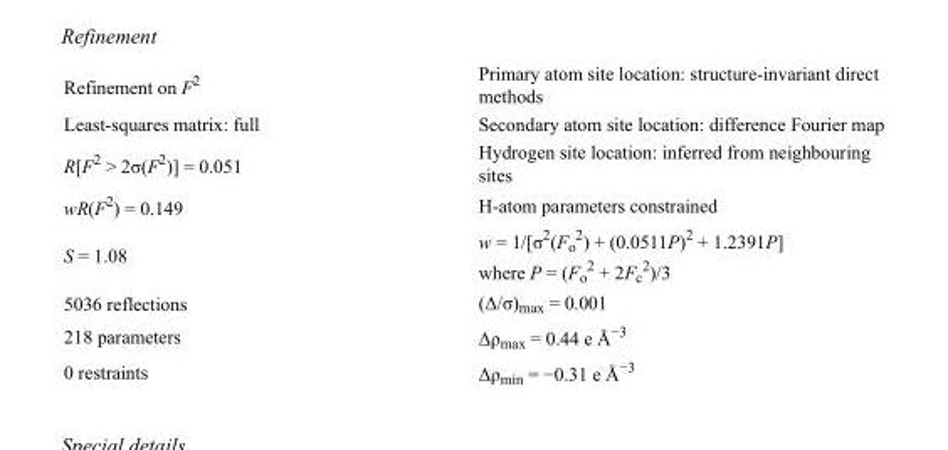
<table><tbody><tr><td>Refinement on F<sup>2</sup></td><td>Primary atom site location: structure-invariant direct methods</td></tr><tr><td>Least-squares matrix: full</td><td>Secondary atom site location: difference Fourier map</td></tr><tr><td>R[F<sup>2</sup> &gt; 2σ(F<sup>2</sup>)] = 0.051</td><td>Hydrogen site location: inferred from neighbouring sites</td></tr><tr><td>wR(F<sup>2</sup>) = 0.149</td><td>H-atom parameters constrained</td></tr><tr><td>S = 1.08</td><td>w = 1/[σ<sup>2</sup>(F<sub>o</sub> <sup>2</sup>) + (0.0511P)<sup>2</sup> + 1.2391P] where P = (F<sub>o</sub> <sup>2</sup> + 2F<sub>c</sub> <sup>2</sup>)/3</td></tr><tr><td>5036 reflections</td><td>(Δ/σ)<sub>max</sub> = 0.001</td></tr><tr><td>218 parameters</td><td>Δρ<sub>max</sub> = 0.44 e Å<sup>−3</sup></td></tr><tr><td>0 restraints</td><td>Δρ<sub>min</sub> = −0.31 e Å<sup>−3</sup></td></tr></tbody></table>